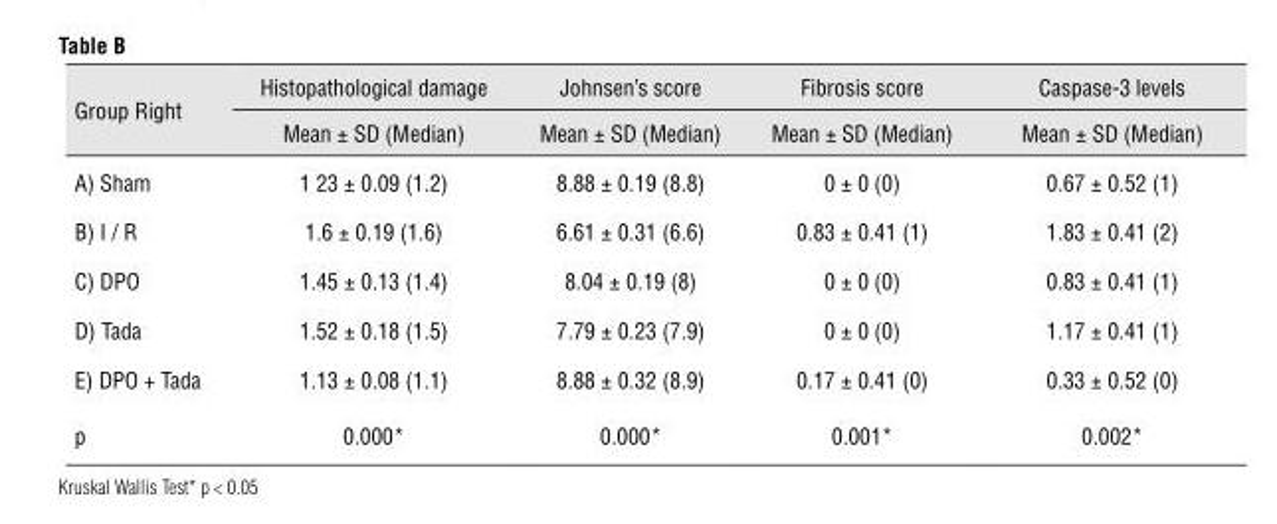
<table><thead><tr><td rowspan="2">Group Right</td><td rowspan="2">Histopathological damage Mean ± SD (Median)</td><td rowspan="2">Johnsen’s score Mean ± SD (Median)</td><td rowspan="2">Fibrosis score Mean ± SD (Median)</td><td rowspan="2">Caspase-3 levels Mean ± SD (Median)</td></tr><tr></tr></thead><tbody><tr><td>A) Sham</td><td>1 23 ± 0.09 (1.2)</td><td>8.88 ± 0.19 (8.8)</td><td>0 ± 0 (0)</td><td>0.67 ± 0.52 (1)</td></tr><tr><td>B) I / R</td><td>1.6 ± 0.19 (1.6)</td><td>6.61 ± 0.31 (6.6)</td><td>0.83 ± 0.41 (1)</td><td>1.83 ± 0.41 (2)</td></tr><tr><td>C) DPO</td><td>1.45 ± 0.13 (1.4)</td><td>8.04 ± 0.19 (8)</td><td>0 ± 0 (0)</td><td>0.83 ± 0.41 (1)</td></tr><tr><td>D) Tada</td><td>1.52 ± 0.18 (1.5)</td><td>7.79 ± 0.23 (7.9)</td><td>0 ± 0 (0)</td><td>1.17 ± 0.41 (1)</td></tr><tr><td>E) DPO + Tada</td><td>1.13 ± 0.08 (1.1)</td><td>8.88 ± 0.32 (8.9)</td><td>0.17 ± 0.41 (0)</td><td>0.33 ± 0.52 (0)</td></tr><tr><td>p</td><td>0.000*</td><td>0.000*</td><td>0.001*</td><td>0.002*</td></tr></tbody></table>